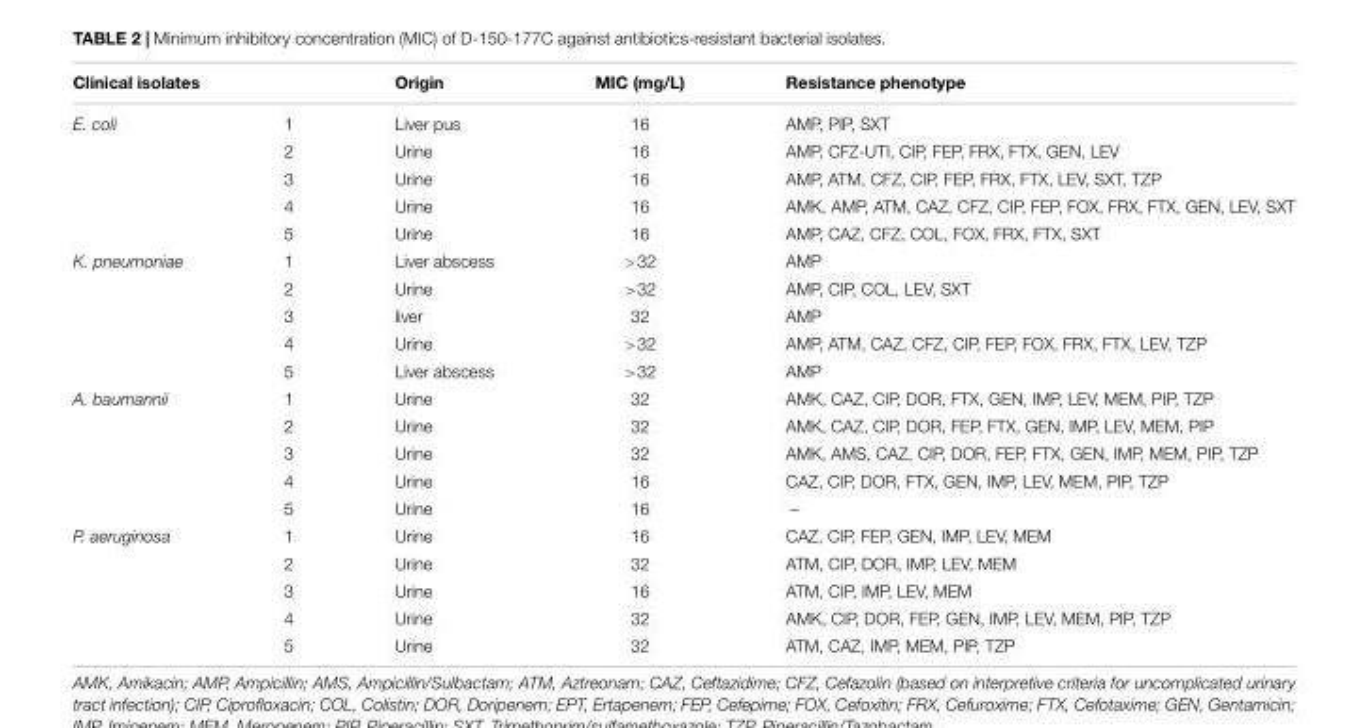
<table><thead><tr><td colspan="2">Clinical isolates</td><td rowspan="2">Origin Liver pus</td><td rowspan="2">MIC (mg/L) 16</td><td rowspan="2">Resistance phenotype AMP, PIP, SXT</td></tr><tr><td>E. coli</td><td>1</td></tr></thead><tbody><tr><td></td><td>2</td><td>Urine</td><td>16</td><td>AMP, CFZ-UTI, CIP, FEP, FRX, FTX, GEN, LEV</td></tr><tr><td></td><td>3</td><td>Urine</td><td>16</td><td>AMP, ATM, CFZ, CIP, FEP, FRX, FTX, LEV, SXT, TZP</td></tr><tr><td></td><td>4</td><td>Urine</td><td>16</td><td>AMK, AMP, ATM, CAZ, CFZ, CIP, FEP, FOX, FRX, FTX, GEN, LEV, SXT</td></tr><tr><td></td><td>5</td><td>Urine</td><td>16</td><td>AMP, CAZ, CFZ, COL, FOX, FRX, FTX, SXT</td></tr><tr><td rowspan="5">K. pneumoniae</td><td>1</td><td>Liver abscess</td><td>&gt;32</td><td>AMP</td></tr><tr><td>2</td><td>Urine</td><td>&gt;32</td><td>AMP, CIP, COL, LEV, SXT</td></tr><tr><td>3</td><td>liver</td><td>32</td><td>AMP</td></tr><tr><td>4</td><td>Urine</td><td>&gt;32</td><td>AMP, ATM, CAZ, CFZ, CIP, FEP, FOX, FRX, FTX, LEV, TZP</td></tr><tr><td>5</td><td>Liver abscess</td><td>&gt;32</td><td>AMP</td></tr><tr><td rowspan="5">A. baumannii</td><td>1</td><td>Urine</td><td>32</td><td>AMK, CAZ, CIP, DOR, FTX, GEN, IMP, LEV, MEM, PIP, TZP</td></tr><tr><td>2</td><td>Urine</td><td>32</td><td>AMK, CAZ, CIP, DOR, FEP, FTX, GEN, IMP, LEV, MEM, PIP</td></tr><tr><td>3</td><td>Urine</td><td>32</td><td>AMK, AMS, CAZ, CIP, DOR, FEP, FTX, GEN, IMP, MEM, PIP, TZP</td></tr><tr><td>4</td><td>Urine</td><td>16</td><td>CAZ, CIP, DOR, FTX, GEN, IMP, LEV, MEM, PIP, TZP</td></tr><tr><td>5</td><td>Urine</td><td>16</td><td>–</td></tr><tr><td rowspan="5">P. aeruginosa</td><td>1</td><td>Urine</td><td>16</td><td>CAZ, CIP, FEP, GEN, IMP, LEV, MEM</td></tr><tr><td>2</td><td>Urine</td><td>32</td><td>ATM, CIP, DOR, IMP, LEV, MEM</td></tr><tr><td>3</td><td>Urine</td><td>16</td><td>ATM, CIP, IMP, LEV, MEM</td></tr><tr><td>4</td><td>Urine</td><td>32</td><td>AMK, CIP, DOR, FEP, GEN, IMP, LEV, MEM, PIP, TZP</td></tr><tr><td>5</td><td>Urine</td><td>32</td><td>ATM, CAZ, IMP, MEM, PIP, TZP</td></tr></tbody></table>